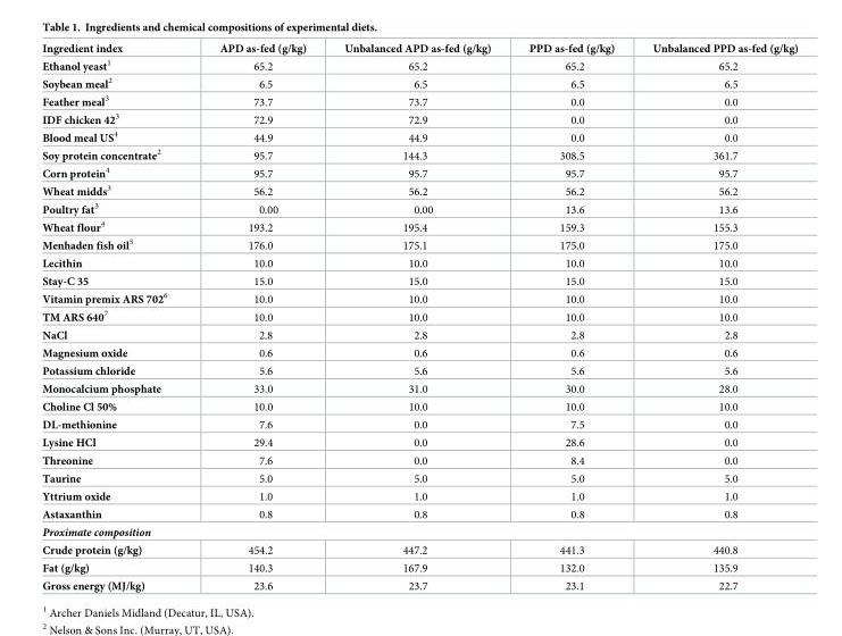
<table><thead><tr><td>Ingredient index</td><td>APD as-fed (g/kg)</td><td>Unbalanced APD as-fed (g/kg)</td><td>PPD as-fed (g/kg)</td><td>Unbalanced PPD as-fed (g/kg)</td></tr></thead><tbody><tr><td>Ethanol yeast<sup>1</sup></td><td>65.2</td><td>65.2</td><td>65.2</td><td>65.2</td></tr><tr><td>Soybean meal<sup>2</sup></td><td>6.5</td><td>6.5</td><td>6.5</td><td>6.5</td></tr><tr><td>Feather meal<sup>3</sup></td><td>73.7</td><td>73.7</td><td>0.0</td><td>0.0</td></tr><tr><td>IDF chicken 42<sup>3</sup></td><td>72.9</td><td>72.9</td><td>0.0</td><td>0.0</td></tr><tr><td>Blood meal US<sup>4</sup></td><td>44.9</td><td>44.9</td><td>0.0</td><td>0.0</td></tr><tr><td>Soy protein concentrate<sup>2</sup></td><td>95.7</td><td>144.3</td><td>308.5</td><td>361.7</td></tr><tr><td>Corn protein<sup>4</sup></td><td>95.7</td><td>95.7</td><td>95.7</td><td>95.7</td></tr><tr><td>Wheat midds<sup>3</sup></td><td>56.2</td><td>56.2</td><td>56.2</td><td>56.2</td></tr><tr><td>Poultry fat<sup>3</sup></td><td>0.00</td><td>0.00</td><td>13.6</td><td>13.6</td></tr><tr><td>Wheat flour<sup>4</sup></td><td>193.2</td><td>195.4</td><td>159.3</td><td>155.3</td></tr><tr><td>Menhaden fish oil<sup>5</sup></td><td>176.0</td><td>175.1</td><td>175.0</td><td>175.0</td></tr><tr><td>Lecithin</td><td>10.0</td><td>10.0</td><td>10.0</td><td>10.0</td></tr><tr><td>Stay-C 35</td><td>15.0</td><td>15.0</td><td>15.0</td><td>15.0</td></tr><tr><td>Vitamin premix ARS 702<sup>6</sup></td><td>10.0</td><td>10.0</td><td>10.0</td><td>10.0</td></tr><tr><td>TM ARS 640<sup>7</sup></td><td>10.0</td><td>10.0</td><td>10.0</td><td>10.0</td></tr><tr><td>NaCl</td><td>2.8</td><td>2.8</td><td>2.8</td><td>2.8</td></tr><tr><td>Magnesium oxide</td><td>0.6</td><td>0.6</td><td>0.6</td><td>0.6</td></tr><tr><td>Potassium chloride</td><td>5.6</td><td>5.6</td><td>5.6</td><td>5.6</td></tr><tr><td>Monocalcium phosphate</td><td>33.0</td><td>31.0</td><td>30.0</td><td>28.0</td></tr><tr><td>Choline Cl 50%</td><td>10.0</td><td>10.0</td><td>10.0</td><td>10.0</td></tr><tr><td>DL-methionine</td><td>7.6</td><td>0.0</td><td>7.5</td><td>0.0</td></tr><tr><td>Lysine HCl</td><td>29.4</td><td>0.0</td><td>28.6</td><td>0.0</td></tr><tr><td>Threonine</td><td>7.6</td><td>0.0</td><td>8.4</td><td>0.0</td></tr><tr><td>Taurine</td><td>5.0</td><td>5.0</td><td>5.0</td><td>5.0</td></tr><tr><td>Yttrium oxide</td><td>1.0</td><td>1.0</td><td>1.0</td><td>1.0</td></tr><tr><td>Astaxanthin</td><td>0.8</td><td>0.8</td><td>0.8</td><td>0.8</td></tr><tr><td colspan="5">Proximate composition</td></tr><tr><td>Crude protein (g/kg)</td><td>454.2</td><td>447.2</td><td>441.3</td><td>440.8</td></tr><tr><td>Fat (g/kg)</td><td>140.3</td><td>167.9</td><td>132.0</td><td>135.9</td></tr><tr><td>Gross energy (MJ/kg)</td><td>23.6</td><td>23.7</td><td>23.1</td><td>22.7</td></tr></tbody></table>